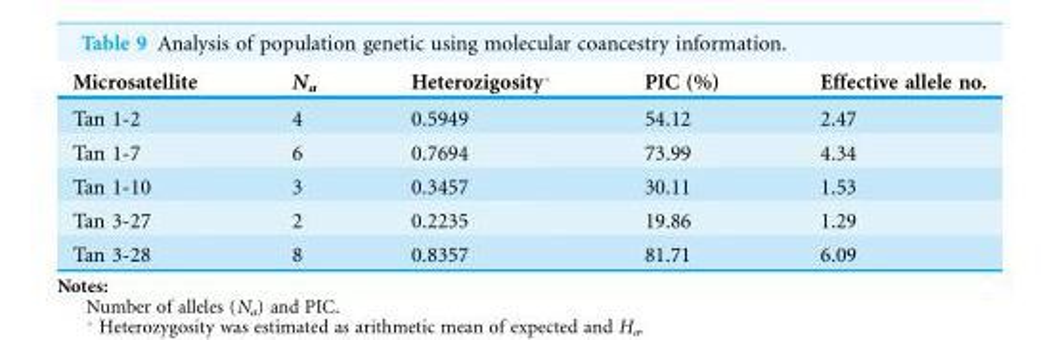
<table><thead><tr><td>Microsatellite</td><td>N<sub>a</sub></td><td>Heterozigosity*</td><td>PIC (%)</td><td>Effective allele no.</td></tr></thead><tbody><tr><td>Tan 1-2</td><td>4</td><td>0.5949</td><td>54.12</td><td>2.47</td></tr><tr><td>Tan 1-7</td><td>6</td><td>0.7694</td><td>73.99</td><td>4.34</td></tr><tr><td>Tan 1-10</td><td>3</td><td>0.3457</td><td>30.11</td><td>1.53</td></tr><tr><td>Tan 3-27</td><td>2</td><td>0.2235</td><td>19.86</td><td>1.29</td></tr><tr><td>Tan 3-28</td><td>8</td><td>0.8357</td><td>81.71</td><td>6.09</td></tr></tbody></table>